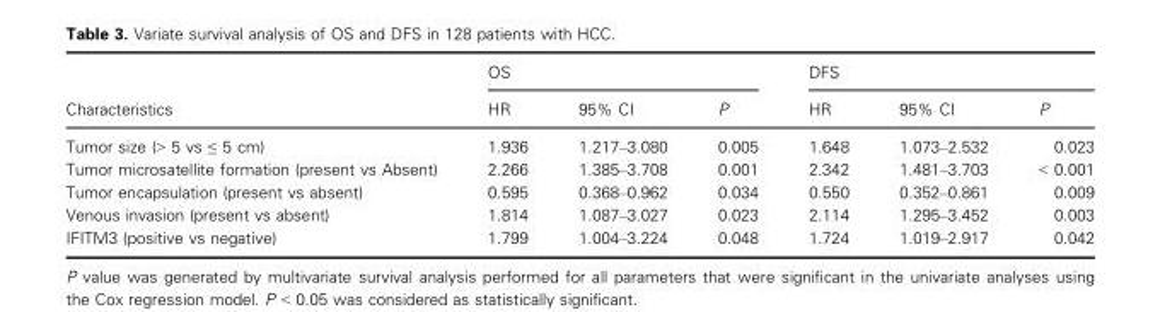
<table><thead><tr><td rowspan="2">Characteristics</td><td colspan="3">OS</td><td colspan="3">DFS</td></tr><tr><td>HR</td><td>95% CI</td><td>P</td><td>HR</td><td>95% CI</td><td>P</td></tr></thead><tbody><tr><td>Tumor size (&gt; 5 vs ≤ 5 cm)</td><td>1.936</td><td>1.217–3.080</td><td>0.005</td><td>1.648</td><td>1.073–2.532</td><td>0.023</td></tr><tr><td>Tumor microsatellite formation (present vs Absent)</td><td>2.266</td><td>1.385–3.708</td><td>0.001</td><td>2.342</td><td>1.481–3.703</td><td>&lt; 0.001</td></tr><tr><td>Tumor encapsulation (present vs absent)</td><td>0.595</td><td>0.368–0.962</td><td>0.034</td><td>0.550</td><td>0.352–0.861</td><td>0.009</td></tr><tr><td>Venous invasion (present vs absent)</td><td>1.814</td><td>1.087–3.027</td><td>0.023</td><td>2.114</td><td>1.295–3.452</td><td>0.003</td></tr><tr><td>IFITM3 (positive vs negative)</td><td>1.799</td><td>1.004–3.224</td><td>0.048</td><td>1.724</td><td>1.019–2.917</td><td>0.042</td></tr></tbody></table>